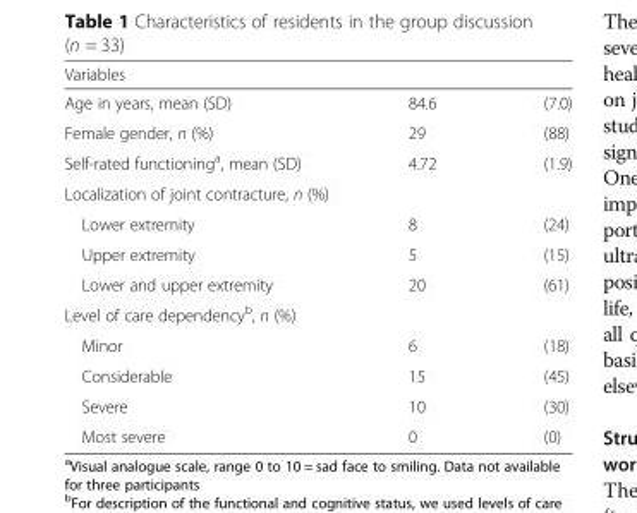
<table><thead><tr><td colspan="3">Variables</td></tr><tr><td>Age in years, mean (SD)</td><td>84.6</td><td>(7.0)</td></tr></thead><tbody><tr><td>Female gender, n (%)</td><td>29</td><td>(88)</td></tr><tr><td>Self-rated functioning<sup>a</sup>, mean (SD)</td><td>4.72</td><td>(1.9)</td></tr><tr><td colspan="3">Localization of joint contracture, n (%)</td></tr><tr><td>Lower extremity</td><td>8</td><td>(24)</td></tr><tr><td>Upper extremity</td><td>5</td><td>(15)</td></tr><tr><td>Lower and upper extremity</td><td>20</td><td>(61)</td></tr><tr><td colspan="3">Level of care dependency<sup>b</sup>, n (%)</td></tr><tr><td>Minor</td><td>6</td><td>(18)</td></tr><tr><td>Considerable</td><td>15</td><td>(45)</td></tr><tr><td>Severe</td><td>10</td><td>(30)</td></tr><tr><td>Most severe</td><td>0</td><td>(0)</td></tr></tbody></table>